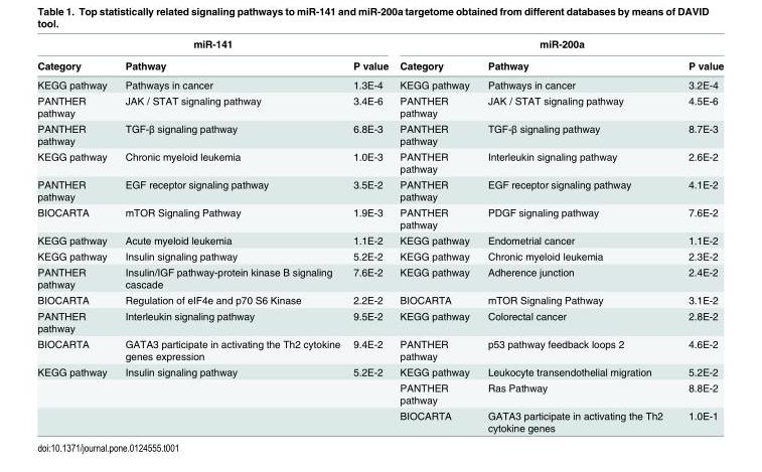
<table><thead><tr><td colspan="3">miR-141</td><td colspan="3">miR-200a</td></tr><tr><td>Category</td><td>Pathway</td><td>P value</td><td>Category</td><td>Pathway</td><td>P value</td></tr></thead><tbody><tr><td>KEGG pathway</td><td>Pathways in cancer</td><td>1.3E-4</td><td>KEGG pathway</td><td>Pathways in cancer</td><td>3.2E-4</td></tr><tr><td>PANTHER pathway</td><td>JAK / STAT signaling pathway</td><td>3.4E-6</td><td>PANTHER pathway</td><td>JAK / STAT signaling pathway</td><td>4.5E-6</td></tr><tr><td>PANTHER pathway</td><td>TGF-β signaling pathway</td><td>6.8E-3</td><td>PANTHER pathway</td><td>TGF-β signaling pathway</td><td>8.7E-3</td></tr><tr><td>KEGG pathway</td><td>Chronic myeloid leukemia</td><td>1.0E-3</td><td>PANTHER pathway</td><td>Interleukin signaling pathway</td><td>2.6E-2</td></tr><tr><td>PANTHER pathway</td><td>EGF receptor signaling pathway</td><td>3.5E-2</td><td>PANTHER pathway</td><td>EGF receptor signaling pathway</td><td>4.1E-2</td></tr><tr><td>BIOCARTA</td><td>mTOR Signaling Pathway</td><td>1.9E-3</td><td>PANTHER pathway</td><td>PDGF signaling pathway</td><td>7.6E-2</td></tr><tr><td>KEGG pathway</td><td>Acute myeloid leukemia</td><td>1.1E-2</td><td>KEGG pathway</td><td>Endometrial cancer</td><td>1.1E-2</td></tr><tr><td>KEGG pathway</td><td>Insulin signaling pathway</td><td>5.2E-2</td><td>KEGG pathway</td><td>Chronic myeloid leukemia</td><td>2.3E-2</td></tr><tr><td>PANTHER pathway</td><td>Insulin/IGF pathway-protein kinase B signaling cascade</td><td>7.6E-2</td><td>KEGG pathway</td><td>Adherence junction</td><td>2.4E-2</td></tr><tr><td>BIOCARTA</td><td>Regulation of eIF4e and p70 S6 Kinase</td><td>2.2E-2</td><td>BIOCARTA</td><td>mTOR Signaling Pathway</td><td>3.1E-2</td></tr><tr><td>PANTHER pathway</td><td>Interleukin signaling pathway</td><td>9.5E-2</td><td>KEGG pathway</td><td>Colorectal cancer</td><td>2.8E-2</td></tr><tr><td>BIOCARTA</td><td>GATA3 participate in activating the Th2 cytokine genes expression</td><td>9.4E-2</td><td>PANTHER pathway</td><td>p53 pathway feedback loops 2</td><td>4.6E-2</td></tr><tr><td rowspan="3">KEGG pathway</td><td>Insulin signaling pathway</td><td>5.2E-2</td><td>KEGG pathway</td><td>Leukocyte transendothelial migration</td><td>5.2E-2</td></tr><tr><td></td><td></td><td>PANTHER pathway</td><td>Ras Pathway</td><td>8.8E-2</td></tr><tr><td></td><td></td><td>BIOCARTA</td><td>GATA3 participate in activating the Th2 cytokine genes</td><td>1.0E-1</td></tr></tbody></table>